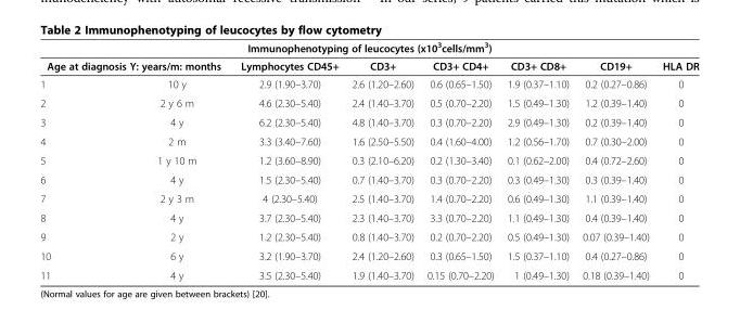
<table><thead><tr><td colspan="8">Immunophenotyping of leucocytes (x10<sup>3</sup>cells/mm<sup>3</sup>)</td></tr><tr><td colspan="2">Age at diagnosis Y: years/m: months</td><td rowspan="2">Lymphocytes CD45+ 2.9 (1.90–3.70)</td><td rowspan="2">CD3+ 2.6 (1.20–2.60)</td><td rowspan="2">CD3+ CD4+ 0.6 (0.65–1.50)</td><td rowspan="2">CD3+ CD8+ 1.9 (0.37–1.10)</td><td rowspan="2">CD19+ 0.2 (0.27–0.86)</td><td rowspan="2">HLA DR 0</td></tr><tr><td>1</td><td>10 y</td></tr></thead><tbody><tr><td>2</td><td>2 y 6 m</td><td>4.6 (2.30–5.40)</td><td>2.4 (1.40–3.70)</td><td>0.5 (0.70–2.20)</td><td>1.5 (0.49–1.30)</td><td>1.2 (0.39–1.40)</td><td>0</td></tr><tr><td>3</td><td>4 y</td><td>6.2 (2.30–5.40)</td><td>4.8 (1.40–3.70)</td><td>0.3 (0.70–2.20)</td><td>2.9 (0.49–1.30)</td><td>0.2 (0.39–1.40)</td><td>0</td></tr><tr><td>4</td><td>2 m</td><td>3.3 (3.40–7.60)</td><td>1.6 (2.50–5.50)</td><td>0.4 (1.60–4.00)</td><td>1.2 (0.56–1.70)</td><td>0.7 (0.30–2.00)</td><td>0</td></tr><tr><td>5</td><td>1 y 10 m</td><td>1.2 (3.60–8.90)</td><td>0.3 (2.10–6.20)</td><td>0.2 (1.30–3.40)</td><td>0.1 (0.62–2.00)</td><td>0.4 (0.72–2.60)</td><td>0</td></tr><tr><td>6</td><td>4 y</td><td>1.5 (2.30–5.40)</td><td>0.7 (1.40–3.70)</td><td>0.3 (0.70–2.20)</td><td>0.3 (0.49–1.30)</td><td>0.3 (0.39–1.40)</td><td>0</td></tr><tr><td>7</td><td>2 y 3 m</td><td>4 (2.30–5.40)</td><td>2.5 (1.40–3.70)</td><td>1.4 (0.70–2.20)</td><td>0.6 (0.49–1.30)</td><td>1.1 (0.39–1.40)</td><td>0</td></tr><tr><td>8</td><td>4 y</td><td>3.7 (2.30–5.40)</td><td>2.3 (1.40–3.70)</td><td>3.3 (0.70–2.20)</td><td>1.1 (0.49–1.30)</td><td>0.4 (0.39–1.40)</td><td>0</td></tr><tr><td>9</td><td>2 y</td><td>1.2 (2.30–5.40)</td><td>0.8 (1.40–3.70)</td><td>0.2 (0.70–2.20)</td><td>0.5 (0.49–1.30)</td><td>0.07 (0.39–1.40)</td><td>0</td></tr><tr><td>10</td><td>6 y</td><td>3.2 (1.90–3.70)</td><td>2.4 (1.20–2.60)</td><td>0.3 (0.65–1.50)</td><td>1.5 (0.37–1.10)</td><td>0.4 (0.27–0.86)</td><td>0</td></tr><tr><td>11</td><td>4 y</td><td>3.5 (2.30–5.40)</td><td>1.9 (1.40–3.70)</td><td>0.15 (0.70–2.20)</td><td>1 (0.49–1.30)</td><td>0.18 (0.39–1.40)</td><td>0</td></tr></tbody></table>